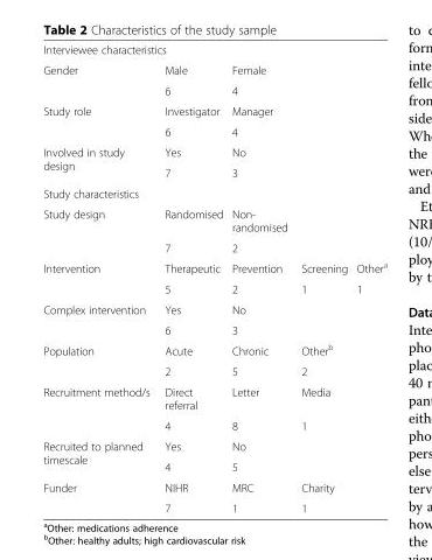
<table><tbody><tr><td colspan="5">Interviewee characteristics</td></tr><tr><td rowspan="2">Gender</td><td>Male</td><td>Female</td><td></td><td></td></tr><tr><td>6</td><td>4</td><td></td><td></td></tr><tr><td rowspan="2">Study role</td><td>Investigator</td><td>Manager</td><td></td><td></td></tr><tr><td>6</td><td>4</td><td></td><td></td></tr><tr><td rowspan="2">Involved in study design</td><td>Yes</td><td>No</td><td></td><td></td></tr><tr><td>7</td><td>3</td><td></td><td></td></tr><tr><td colspan="5">Study characteristics</td></tr><tr><td rowspan="2">Study design</td><td>Randomised</td><td>Non- randomised</td><td></td><td></td></tr><tr><td>7</td><td>2</td><td></td><td></td></tr><tr><td rowspan="2">Intervention</td><td>Therapeutic</td><td>Prevention</td><td>Screening</td><td>Other<sup>a</sup></td></tr><tr><td>5</td><td>2</td><td>1</td><td>1</td></tr><tr><td rowspan="2">Complex intervention</td><td>Yes</td><td>No</td><td></td><td></td></tr><tr><td>6</td><td>3</td><td></td><td></td></tr><tr><td rowspan="2">Population</td><td>Acute</td><td>Chronic</td><td>Other<sup>b</sup></td><td></td></tr><tr><td>2</td><td>5</td><td>2</td><td></td></tr><tr><td rowspan="2">Recruitment method/s</td><td>Direct referral</td><td>Letter</td><td>Media</td><td></td></tr><tr><td>4</td><td>8</td><td>1</td><td></td></tr><tr><td rowspan="2">Recruited to planned timescale</td><td>Yes</td><td>No</td><td></td><td></td></tr><tr><td>4</td><td>5</td><td></td><td></td></tr><tr><td rowspan="2">Funder</td><td>NIHR</td><td>MRC</td><td>Charity</td><td></td></tr><tr><td>7</td><td>1</td><td>1</td><td></td></tr></tbody></table>